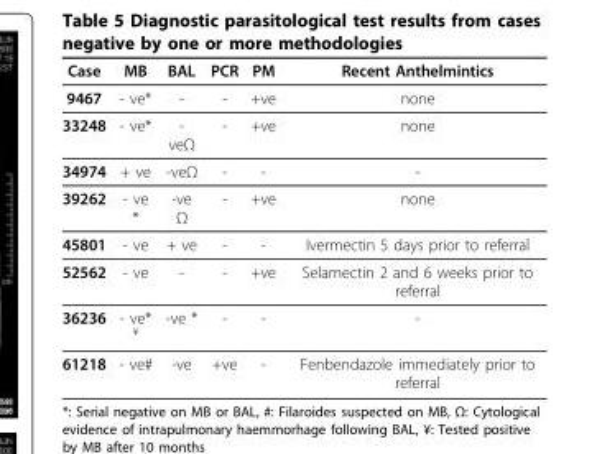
<table><thead><tr><td>Case</td><td>MB</td><td>BAL</td><td>PCR</td><td>PM</td><td>Recent Anthelmintics</td></tr></thead><tbody><tr><td>9467</td><td>- ve*</td><td>-</td><td>-</td><td>+ve</td><td>none</td></tr><tr><td>33248</td><td>- ve*</td><td>- veΩ</td><td>-</td><td>+ve</td><td>none</td></tr><tr><td>34974</td><td>+ ve</td><td>-veΩ</td><td>-</td><td>-</td><td>-</td></tr><tr><td>39262</td><td>- ve *</td><td>-ve Ω</td><td>-</td><td>+ve</td><td>none</td></tr><tr><td>45801</td><td>- ve</td><td>+ ve</td><td>-</td><td>-</td><td>Ivermectin 5 days prior to referral</td></tr><tr><td>52562</td><td>- ve</td><td>-</td><td>-</td><td>+ve</td><td>Selamectin 2 and 6 weeks prior to referral</td></tr><tr><td>36236</td><td>- ve* <sup>¥</sup></td><td>-ve *</td><td>-</td><td>-</td><td>-</td></tr><tr><td>61218</td><td>- ve#</td><td>-ve</td><td>+ve</td><td>-</td><td>Fenbendazole immediately prior to referral</td></tr></tbody></table>